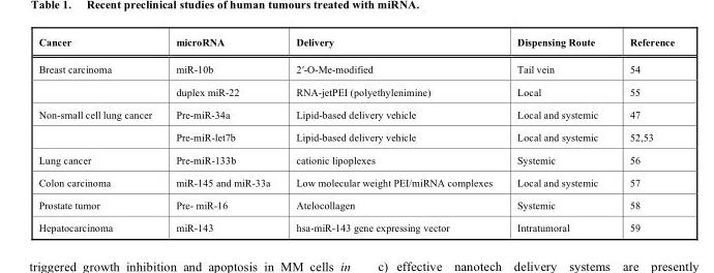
<table><thead><tr><td>Cancer</td><td>microRNA</td><td>Delivery</td><td>Dispensing Route</td><td>Reference</td></tr></thead><tbody><tr><td rowspan="2">Breast carcinoma</td><td>miR-10b</td><td>2′-O-Me-modified</td><td>Tail vein</td><td>54</td></tr><tr><td>duplex miR-22</td><td>RNA-jetPEI (polyethylenimine)</td><td>Local</td><td>55</td></tr><tr><td rowspan="2">Non-small cell lung cancer</td><td>Pre-miR-34a</td><td>Lipid-based delivery vehicle</td><td>Local and systemic</td><td>47</td></tr><tr><td>Pre-miR-let7b</td><td>Lipid-based delivery vehicle</td><td>Local and systemic</td><td>52,53</td></tr><tr><td>Lung cancer</td><td>Pre-miR-133b</td><td>cationic lipoplexes</td><td>Systemic</td><td>56</td></tr><tr><td>Colon carcinoma</td><td>miR-145 and miR-33a</td><td>Low molecular weight PEI/miRNA complexes</td><td>Local and systemic</td><td>57</td></tr><tr><td>Prostate tumor</td><td>Pre- miR-16</td><td>Atelocollagen</td><td>Systemic</td><td>58</td></tr><tr><td>Hepatocarcinoma</td><td>miR-143</td><td>hsa-miR-143 gene expressing vector</td><td>Intratumoral</td><td>59</td></tr></tbody></table>